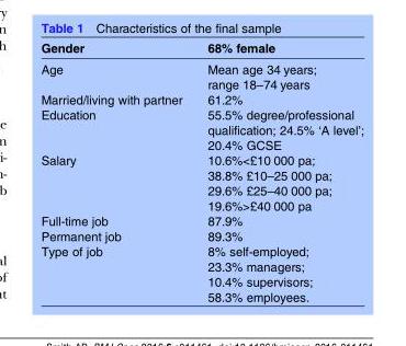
<table><thead><tr><td>Gender</td><td>68% female</td></tr></thead><tbody><tr><td>Age</td><td>Mean age 34 years; range 18–74 years</td></tr><tr><td>Married/living with partner</td><td>61.2%</td></tr><tr><td>Education</td><td>55.5% degree/professional qualification; 24.5% ‘A level’; 20.4% GCSE</td></tr><tr><td>Salary</td><td>10.6%&lt;£10 000 pa; 38.8% £10–25 000 pa; 29.6% £25–40 000 pa; 19.6%&gt;£40 000 pa</td></tr><tr><td>Full-time job</td><td>87.9%</td></tr><tr><td>Permanent job</td><td>89.3%</td></tr><tr><td>Type of job</td><td>8% self-employed; 23.3% managers; 10.4% supervisors; 58.3% employees.</td></tr></tbody></table>